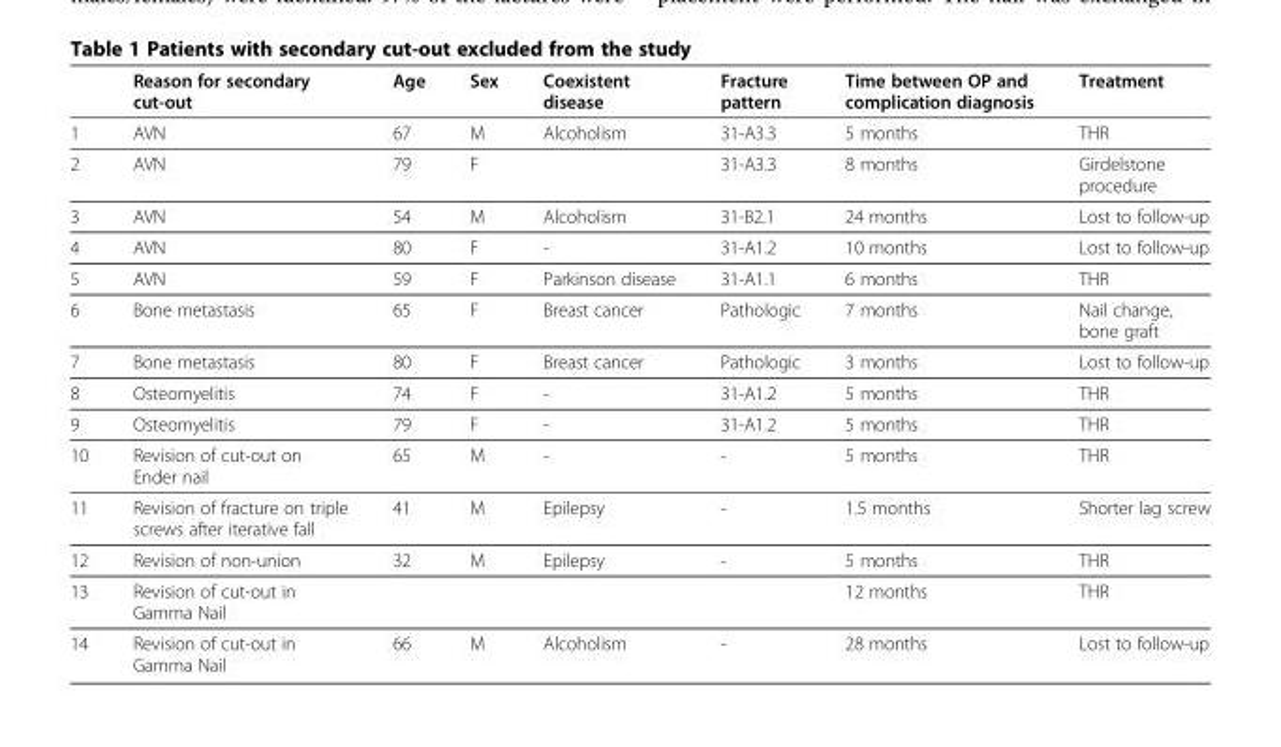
<table><thead><tr><td></td><td>Reason for secondary cut-out</td><td>Age</td><td>Sex</td><td>Coexistent disease</td><td>Fracture pattern</td><td>Time between OP and complication diagnosis</td><td>Treatment</td></tr></thead><tbody><tr><td>1</td><td>AVN</td><td>67</td><td>M</td><td>Alcoholism</td><td>31-A3.3</td><td>5 months</td><td>THR</td></tr><tr><td>2</td><td>AVN</td><td>79</td><td>F</td><td></td><td>31-A3.3</td><td>8 months</td><td>Girdelstone procedure</td></tr><tr><td>3</td><td>AVN</td><td>54</td><td>M</td><td>Alcoholism</td><td>31-B2.1</td><td>24 months</td><td>Lost to follow-up</td></tr><tr><td>4</td><td>AVN</td><td>80</td><td>F</td><td>-</td><td>31-A1.2</td><td>10 months</td><td>Lost to follow-up</td></tr><tr><td>5</td><td>AVN</td><td>59</td><td>F</td><td>Parkinson disease</td><td>31-A1.1</td><td>6 months</td><td>THR</td></tr><tr><td>6</td><td>Bone metastasis</td><td>65</td><td>F</td><td>Breast cancer</td><td>Pathologic</td><td>7 months</td><td>Nail change, bone graft</td></tr><tr><td>7</td><td>Bone metastasis</td><td>80</td><td>F</td><td>Breast cancer</td><td>Pathologic</td><td>3 months</td><td>Lost to follow-up</td></tr><tr><td>8</td><td>Osteomyelitis</td><td>74</td><td>F</td><td>-</td><td>31-A1.2</td><td>5 months</td><td>THR</td></tr><tr><td>9</td><td>Osteomyelitis</td><td>79</td><td>F</td><td>-</td><td>31-A1.2</td><td>5 months</td><td>THR</td></tr><tr><td>10</td><td>Revision of cut-out on Ender nail</td><td>65</td><td>M</td><td>-</td><td>-</td><td>5 months</td><td>THR</td></tr><tr><td>11</td><td>Revision of fracture on triple screws after iterative fall</td><td>41</td><td>M</td><td>Epilepsy</td><td>-</td><td>1.5 months</td><td>Shorter lag screw</td></tr><tr><td>12</td><td>Revision of non-union</td><td>32</td><td>M</td><td>Epilepsy</td><td>-</td><td>5 months</td><td>THR</td></tr><tr><td>13</td><td>Revision of cut-out in Gamma Nail</td><td></td><td></td><td></td><td></td><td>12 months</td><td>THR</td></tr><tr><td>14</td><td>Revision of cut-out in Gamma Nail</td><td>66</td><td>M</td><td>Alcoholism</td><td>-</td><td>28 months</td><td>Lost to follow-up</td></tr></tbody></table>